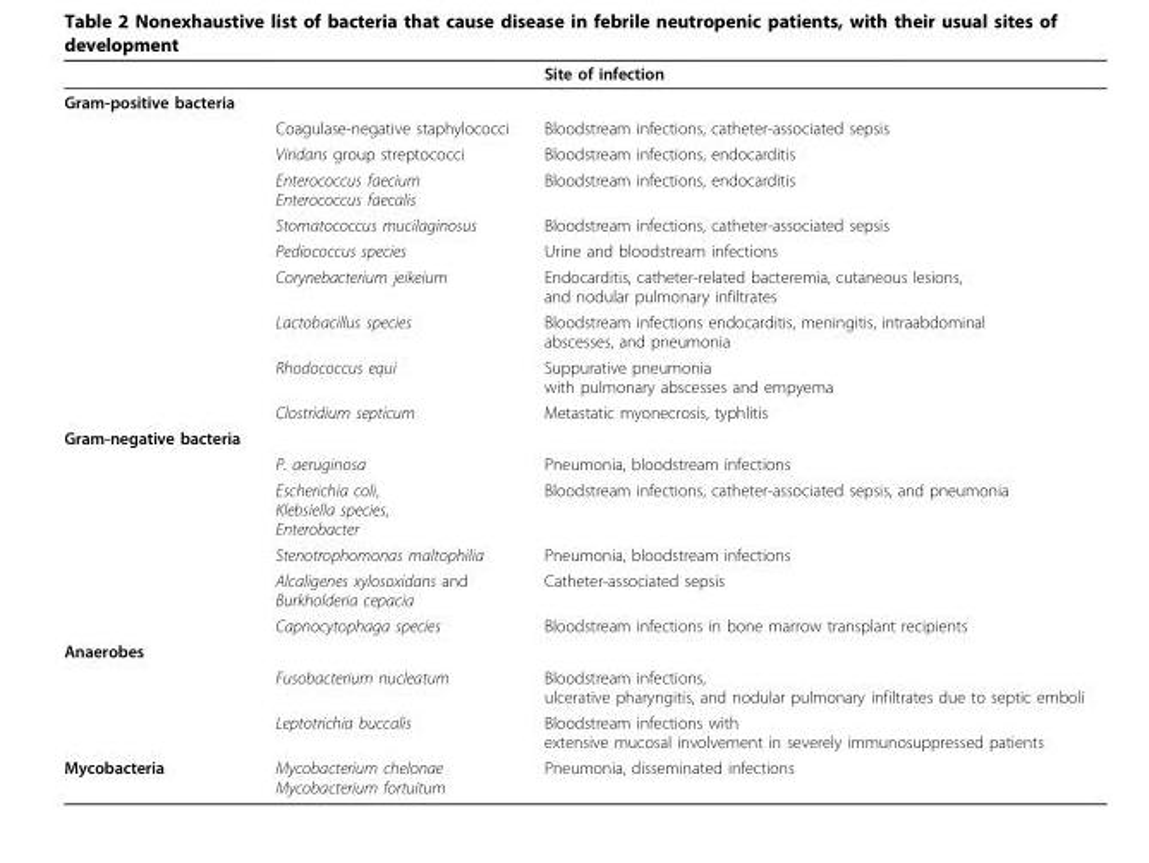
<table><thead><tr><td></td><td></td><td>Site of infection</td></tr></thead><tbody><tr><td colspan="3">Gram-positive bacteria</td></tr><tr><td></td><td>Coagulase-negative staphylococci</td><td>Bloodstream infections, catheter-associated sepsis</td></tr><tr><td></td><td>Viridans group streptococci</td><td>Bloodstream infections, endocarditis</td></tr><tr><td></td><td>Enterococcus faecium Enterococcus faecalis</td><td>Bloodstream infections, endocarditis</td></tr><tr><td></td><td>Stomatococcus mucilaginosus</td><td>Bloodstream infections, catheter-associated sepsis</td></tr><tr><td></td><td>Pediococcus species</td><td>Urine and bloodstream infections</td></tr><tr><td></td><td>Corynebacterium jeikeium</td><td>Endocarditis, catheter-related bacteremia, cutaneous lesions, and nodular pulmonary infiltrates</td></tr><tr><td></td><td>Lactobacillus species</td><td>Bloodstream infections endocarditis, meningitis, intraabdominal abscesses, and pneumonia</td></tr><tr><td></td><td>Rhodococcus equi</td><td>Suppurative pneumonia with pulmonary abscesses and empyema</td></tr><tr><td></td><td>Clostridium septicum</td><td>Metastatic myonecrosis, typhlitis</td></tr><tr><td colspan="3">Gram-negative bacteria</td></tr><tr><td></td><td>P. aeruginosa</td><td>Pneumonia, bloodstream infections</td></tr><tr><td></td><td>Escherichia coli, Klebsiella species, Enterobacter</td><td>Bloodstream infections, catheter-associated sepsis, and pneumonia</td></tr><tr><td></td><td>Stenotrophomonas maltophilia</td><td>Pneumonia, bloodstream infections</td></tr><tr><td></td><td>Alcaligenes xylosoxidans and Burkholderia cepacia</td><td>Catheter-associated sepsis</td></tr><tr><td></td><td>Capnocytophaga species</td><td>Bloodstream infections in bone marrow transplant recipients</td></tr><tr><td colspan="3">Anaerobes</td></tr><tr><td></td><td>Fusobacterium nucleatum</td><td>Bloodstream infections, ulcerative pharyngitis, and nodular pulmonary infiltrates due to septic emboli</td></tr><tr><td></td><td>Leptotrichia buccalis</td><td>Bloodstream infections with extensive mucosal involvement in severely immunosuppressed patients</td></tr><tr><td>Mycobacteria</td><td>Mycobacterium chelonae Mycobacterium fortuitum</td><td>Pneumonia, disseminated infections</td></tr></tbody></table>